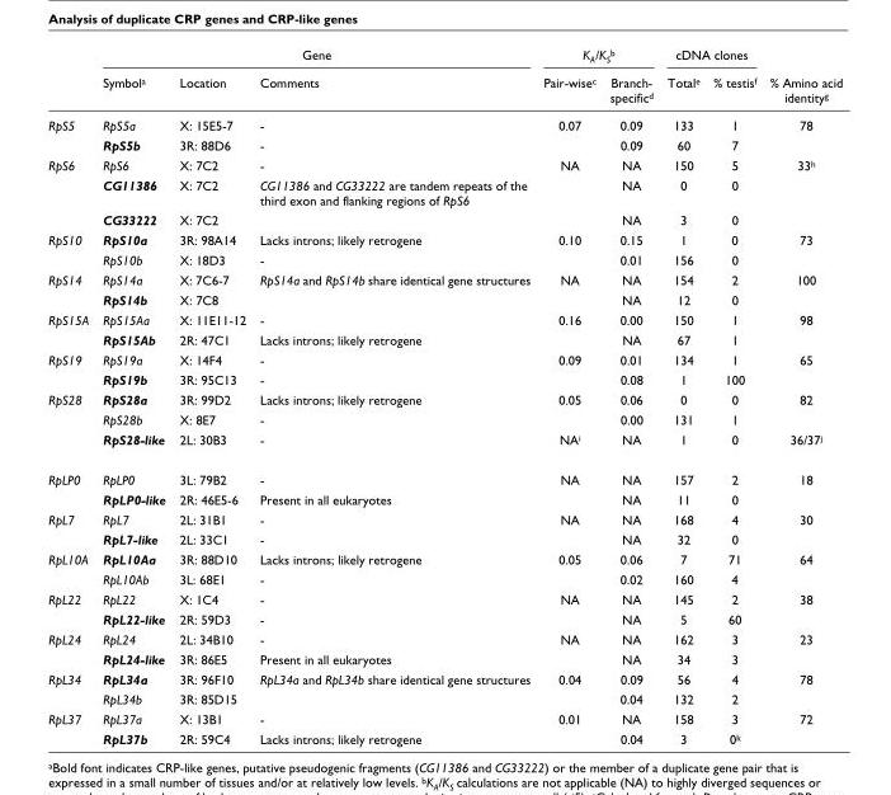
<table><thead><tr><td rowspan="2"></td><td colspan="3">Gene</td><td colspan="2">K<sub>A</sub>/K<sub>S</sub><sup>b</sup></td><td colspan="2">cDNA clones</td><td rowspan="2">% Amino acid identity<sup>g</sup></td></tr><tr><td>Symbol<sup>a</sup></td><td>Location</td><td>Comments</td><td>Pair-wise<sup>c</sup></td><td>Branch- specific<sup>d</sup></td><td>Total<sup>e</sup></td><td>% testis<sup>f</sup></td></tr></thead><tbody><tr><td rowspan="2">RpS5</td><td>RpS5a</td><td>X: 15E5-7</td><td>-</td><td>0.07</td><td>0.09</td><td>133</td><td>1</td><td>78</td></tr><tr><td>RpS5b</td><td>3R: 88D6</td><td>-</td><td></td><td>0.09</td><td>60</td><td>7</td><td></td></tr><tr><td rowspan="3">RpS6</td><td>RpS6</td><td>X: 7C2</td><td>-</td><td>NA</td><td>NA</td><td>150</td><td>5</td><td>33<sup>h</sup></td></tr><tr><td>CG11386</td><td>X: 7C2</td><td>CG11386 and CG33222 are tandem repeats of the third exon and flanking regions of RpS6</td><td></td><td>NA</td><td>0</td><td>0</td><td></td></tr><tr><td>CG33222</td><td>X: 7C2</td><td></td><td></td><td>NA</td><td>3</td><td>0</td><td></td></tr><tr><td rowspan="2">RpS10</td><td>RpS10a</td><td>3R: 98A14</td><td>Lacks introns; likely retrogene</td><td>0.10</td><td>0.15</td><td>1</td><td>0</td><td>73</td></tr><tr><td>RpS10b</td><td>X: 18D3</td><td>-</td><td></td><td>0.01</td><td>156</td><td>0</td><td></td></tr><tr><td rowspan="2">RpS14</td><td>RpS14a</td><td>X: 7C6-7</td><td>RpS14a and RpS14b share identical gene structures</td><td>NA</td><td>NA</td><td>154</td><td>2</td><td>100</td></tr><tr><td>RpS14b</td><td>X: 7C8</td><td></td><td></td><td>NA</td><td>12</td><td>0</td><td></td></tr><tr><td rowspan="2">RpS15A</td><td>RpS15Aa</td><td>X: 11E11-12</td><td>-</td><td>0.16</td><td>0.00</td><td>150</td><td>1</td><td>98</td></tr><tr><td>RpS15Ab</td><td>2R: 47C1</td><td>Lacks introns; likely retrogene</td><td></td><td>NA</td><td>67</td><td>1</td><td></td></tr><tr><td rowspan="2">RpS19</td><td>RpS19a</td><td>X: 14F4</td><td>-</td><td>0.09</td><td>0.01</td><td>134</td><td>1</td><td>65</td></tr><tr><td>RpS19b</td><td>3R: 95C13</td><td>-</td><td></td><td>0.08</td><td>1</td><td>100</td><td></td></tr><tr><td rowspan="3">RpS28</td><td>RpS28a</td><td>3R: 99D2</td><td>Lacks introns; likely retrogene</td><td>0.05</td><td>0.06</td><td>0</td><td>0</td><td>82</td></tr><tr><td>RpS28b</td><td>X: 8E7</td><td>-</td><td></td><td>0.00</td><td>131</td><td>1</td><td></td></tr><tr><td>RpS28-like</td><td>2L: 30B3</td><td>-</td><td>NA<sup>i</sup></td><td>NA</td><td>1</td><td>0</td><td>36/37<sup>j</sup></td></tr><tr><td rowspan="2">RpLP0</td><td>RpLP0</td><td>3L: 79B2</td><td>-</td><td>NA</td><td>NA</td><td>157</td><td>2</td><td>18</td></tr><tr><td>RpLP0-like</td><td>2R: 46E5-6</td><td>Present in all eukaryotes</td><td></td><td>NA</td><td>11</td><td>0</td><td></td></tr><tr><td rowspan="2">RpL7</td><td>RpL7</td><td>2L: 31B1</td><td>-</td><td>NA</td><td>NA</td><td>168</td><td>4</td><td>30</td></tr><tr><td>RpL7-like</td><td>2L: 33C1</td><td>-</td><td></td><td>NA</td><td>32</td><td>0</td><td></td></tr><tr><td rowspan="2">RpL10A</td><td>RpL10Aa</td><td>3R: 88D10</td><td>Lacks introns; likely retrogene</td><td>0.05</td><td>0.06</td><td>7</td><td>71</td><td>64</td></tr><tr><td>RpL10Ab</td><td>3L: 68E1</td><td>-</td><td></td><td>0.02</td><td>160</td><td>4</td><td></td></tr><tr><td rowspan="2">RpL22</td><td>RpL22</td><td>X: 1C4</td><td>-</td><td>NA</td><td>NA</td><td>145</td><td>2</td><td>38</td></tr><tr><td>RpL22-like</td><td>2R: 59D3</td><td>-</td><td></td><td>NA</td><td>5</td><td>60</td><td></td></tr><tr><td rowspan="2">RpL24</td><td>RpL24</td><td>2L: 34B10</td><td>-</td><td>NA</td><td>NA</td><td>162</td><td>3</td><td>23</td></tr><tr><td>RpL24-like</td><td>3R: 86E5</td><td>Present in all eukaryotes</td><td></td><td>NA</td><td>34</td><td>3</td><td></td></tr><tr><td rowspan="2">RpL34</td><td>RpL34a</td><td>3R: 96F10</td><td>RpL34a and RpL34b share identical gene structures</td><td>0.04</td><td>0.09</td><td>56</td><td>4</td><td>78</td></tr><tr><td>RpL34b</td><td>3R: 85D15</td><td></td><td></td><td>0.04</td><td>132</td><td>2</td><td></td></tr><tr><td rowspan="2">RpL37</td><td>RpL37a</td><td>X: 13B1</td><td>-</td><td>0.01</td><td>NA</td><td>158</td><td>3</td><td>72</td></tr><tr><td>RpL37b</td><td>2R: 59C4</td><td>Lacks introns; likely retrogene</td><td></td><td>0.04</td><td>3</td><td>0<sup>k</sup></td><td></td></tr></tbody></table>